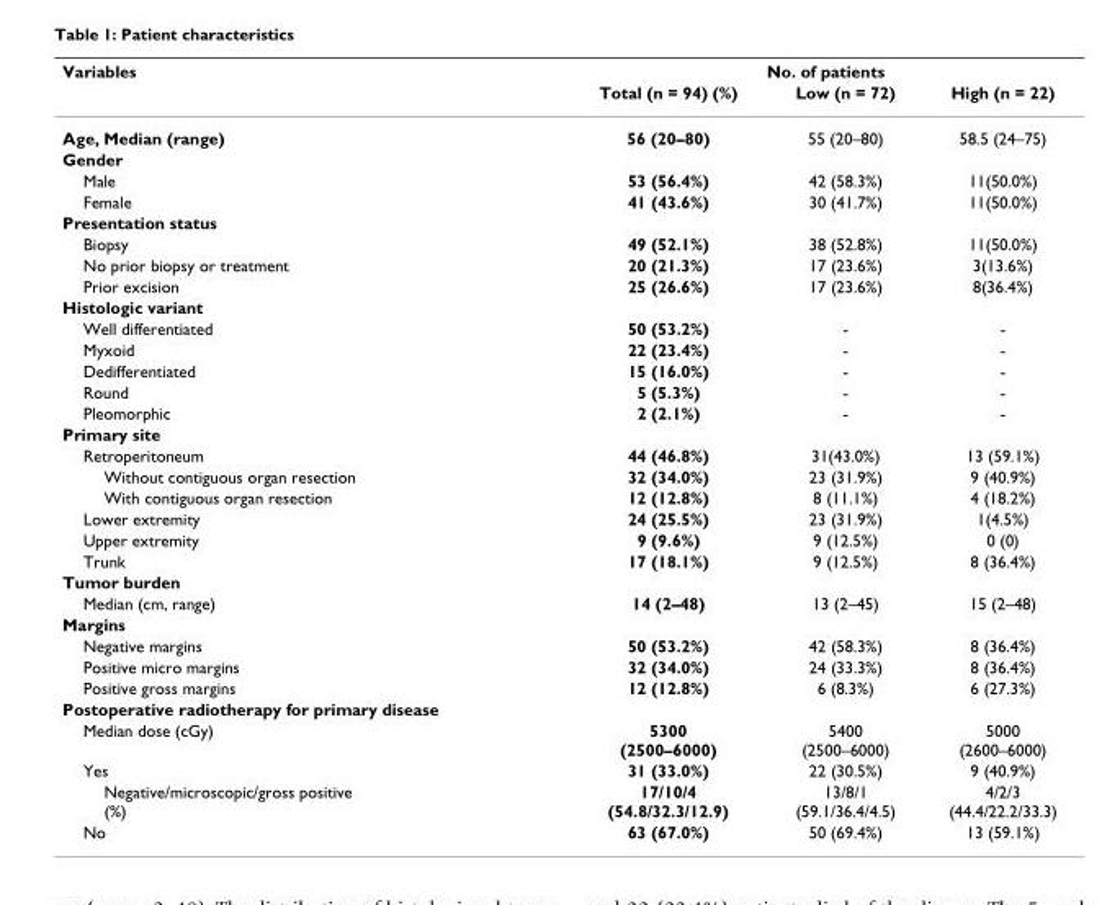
<table><thead><tr><td rowspan="2">Variables</td><td colspan="3">No. of patients</td></tr><tr><td>Total (n = 94) (%)</td><td>Low (n = 72)</td><td>High (n = 22)</td></tr></thead><tbody><tr><td>Age, Median (range)</td><td>56 (20–80)</td><td>55 (20–80)</td><td>58.5 (24–75)</td></tr><tr><td colspan="4">Gender</td></tr><tr><td>Male</td><td>53 (56.4%)</td><td>42 (58.3%)</td><td>11(50.0%)</td></tr><tr><td>Female</td><td>41 (43.6%)</td><td>30 (41.7%)</td><td>11(50.0%)</td></tr><tr><td colspan="4">Presentation status</td></tr><tr><td>Biopsy</td><td>49 (52.1%)</td><td>38 (52.8%)</td><td>11(50.0%)</td></tr><tr><td>No prior biopsy or treatment</td><td>20 (21.3%)</td><td>17 (23.6%)</td><td>3(13.6%)</td></tr><tr><td>Prior excision</td><td>25 (26.6%)</td><td>17 (23.6%)</td><td>8(36.4%)</td></tr><tr><td colspan="4">Histologic variant</td></tr><tr><td>Well differentiated</td><td>50 (53.2%)</td><td>-</td><td>-</td></tr><tr><td>Myxoid</td><td>22 (23.4%)</td><td>-</td><td>-</td></tr><tr><td>Dedifferentiated</td><td>15 (16.0%)</td><td>-</td><td>-</td></tr><tr><td>Round</td><td>5 (5.3%)</td><td>-</td><td>-</td></tr><tr><td>Pleomorphic</td><td>2 (2.1%)</td><td>-</td><td>-</td></tr><tr><td colspan="4">Primary site</td></tr><tr><td>Retroperitoneum</td><td>44 (46.8%)</td><td>31(43.0%)</td><td>13 (59.1%)</td></tr><tr><td>Without contiguous organ resection</td><td>32 (34.0%)</td><td>23 (31.9%)</td><td>9 (40.9%)</td></tr><tr><td>With contiguous organ resection</td><td>12 (12.8%)</td><td>8 (11.1%)</td><td>4 (18.2%)</td></tr><tr><td>Lower extremity</td><td>24 (25.5%)</td><td>23 (31.9%)</td><td>1(4.5%)</td></tr><tr><td>Upper extremity</td><td>9 (9.6%)</td><td>9 (12.5%)</td><td>0 (0)</td></tr><tr><td>Trunk</td><td>17 (18.1%)</td><td>9 (12.5%)</td><td>8 (36.4%)</td></tr><tr><td colspan="4">Tumor burden</td></tr><tr><td>Median (cm, range)</td><td>14 (2–48)</td><td>13 (2–45)</td><td>15 (2–48)</td></tr><tr><td colspan="4">Margins</td></tr><tr><td>Negative margins</td><td>50 (53.2%)</td><td>42 (58.3%)</td><td>8 (36.4%)</td></tr><tr><td>Positive micro margins</td><td>32 (34.0%)</td><td>24 (33.3%)</td><td>8 (36.4%)</td></tr><tr><td>Positive gross margins</td><td>12 (12.8%)</td><td>6 (8.3%)</td><td>6 (27.3%)</td></tr><tr><td colspan="4">Postoperative radiotherapy for primary disease</td></tr><tr><td>Median dose (cGy)</td><td>5300 (2500–6000)</td><td>5400 (2500–6000)</td><td>5000 (2600–6000)</td></tr><tr><td>Yes</td><td>31 (33.0%)</td><td>22 (30.5%)</td><td>9 (40.9%)</td></tr><tr><td>Negative/microscopic/gross positive (%)</td><td>17/10/4 (54.8/32.3/12.9)</td><td>13/8/1 (59.1/36.4/4.5)</td><td>4/2/3 (44.4/22.2/33.3)</td></tr><tr><td>No</td><td>63 (67.0%)</td><td>50 (69.4%)</td><td>13 (59.1%)</td></tr></tbody></table>